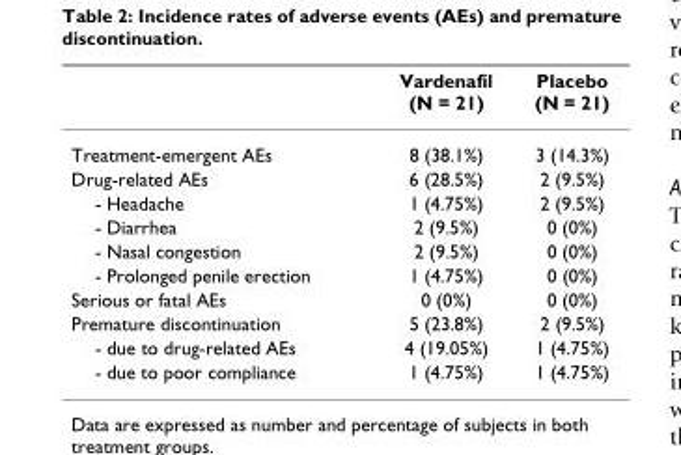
<table><thead><tr><td></td><td>Vardenafil (N = 21)</td><td>Placebo (N = 21)</td></tr></thead><tbody><tr><td>Treatment-emergent AEs</td><td>8 (38.1%)</td><td>3 (14.3%)</td></tr><tr><td>Drug-related AEs</td><td>6 (28.5%)</td><td>2 (9.5%)</td></tr><tr><td>- Headache</td><td>1 (4.75%)</td><td>2 (9.5%)</td></tr><tr><td>- Diarrhea</td><td>2 (9.5%)</td><td>0 (0%)</td></tr><tr><td>- Nasal congestion</td><td>2 (9.5%)</td><td>0 (0%)</td></tr><tr><td>- Prolonged penile erection</td><td>1 (4.75%)</td><td>0 (0%)</td></tr><tr><td>Serious or fatal AEs</td><td>0 (0%)</td><td>0 (0%)</td></tr><tr><td>Premature discontinuation</td><td>5 (23.8%)</td><td>2 (9.5%)</td></tr><tr><td>- due to drug-related AEs</td><td>4 (19.05%)</td><td>1 (4.75%)</td></tr><tr><td>- due to poor compliance</td><td>1 (4.75%)</td><td>1 (4.75%)</td></tr></tbody></table>